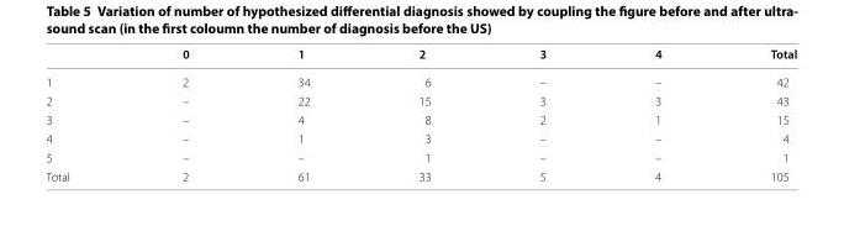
<table><thead><tr><td></td><td>0</td><td>1</td><td>2</td><td>3</td><td>4</td><td>Total</td></tr></thead><tbody><tr><td>1</td><td>2</td><td>34</td><td>6</td><td>–</td><td>–</td><td>42</td></tr><tr><td>2</td><td>–</td><td>22</td><td>15</td><td>3</td><td>3</td><td>43</td></tr><tr><td>3</td><td>–</td><td>4</td><td>8</td><td>2</td><td>1</td><td>15</td></tr><tr><td>4</td><td>–</td><td>1</td><td>3</td><td>–</td><td>–</td><td>4</td></tr><tr><td>5</td><td>–</td><td>–</td><td>1</td><td>–</td><td>–</td><td>1</td></tr><tr><td>Total</td><td>2</td><td>61</td><td>33</td><td>5</td><td>4</td><td>105</td></tr></tbody></table>